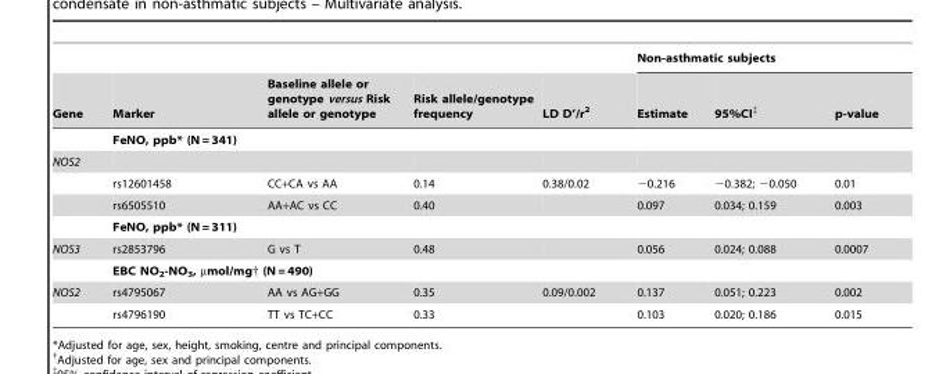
<table><thead><tr><td rowspan="2">Gene</td><td rowspan="2">Marker</td><td rowspan="2">Baseline allele or genotype versus Risk allele or genotype</td><td rowspan="2">Risk allele/genotype frequency</td><td rowspan="2">LD D’/r<sup>2</sup></td><td colspan="3">Non-asthmatic subjects</td></tr><tr><td>Estimate</td><td>95%CI‡</td><td>p-value</td></tr></thead><tbody><tr><td></td><td colspan="2">FeNO, ppb* (N = 341)</td><td></td><td></td><td></td><td></td><td></td></tr><tr><td colspan="8">NOS2</td></tr><tr><td></td><td>rs12601458</td><td>CC+CA vs AA</td><td>0.14</td><td>0.38/0.02</td><td>−0.216</td><td>−0.382; −0.050</td><td>0.01</td></tr><tr><td></td><td>rs6505510</td><td>AA+AC vs CC</td><td>0.40</td><td></td><td>0.097</td><td>0.034; 0.159</td><td>0.003</td></tr><tr><td></td><td colspan="2">FeNO, ppb* (N = 311)</td><td></td><td></td><td></td><td></td><td></td></tr><tr><td rowspan="2">NOS3</td><td>rs2853796</td><td>G vs T</td><td>0.48</td><td></td><td>0.056</td><td>0.024; 0.088</td><td>0.0007</td></tr><tr><td colspan="2">EBC NO<sub>2</sub>-NO<sub>3</sub>, µmol/mg† (N = 490)</td><td></td><td></td><td></td><td></td><td></td></tr><tr><td rowspan="2">NOS2</td><td>rs4795067</td><td>AA vs AG+GG</td><td>0.35</td><td>0.09/0.002</td><td>0.137</td><td>0.051; 0.223</td><td>0.002</td></tr><tr><td>rs4796190</td><td>TT vs TC+CC</td><td>0.33</td><td></td><td>0.103</td><td>0.020; 0.186</td><td>0.015</td></tr></tbody></table>